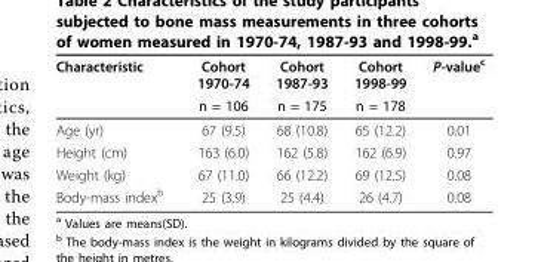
<table><thead><tr><td rowspan="2">Characteristic</td><td rowspan="2">Cohort 1970-74 n = 106</td><td rowspan="2">Cohort 1987-93 n = 175</td><td rowspan="2">Cohort 1998-99 n = 178</td><td rowspan="2">P-value<sup>c</sup></td></tr><tr></tr></thead><tbody><tr><td>Age (yr)</td><td>67 (9.5)</td><td>68 (10.8)</td><td>65 (12.2)</td><td>0.01</td></tr><tr><td>Height (cm)</td><td>163 (6.0)</td><td>162 (5.8)</td><td>162 (6.9)</td><td>0.97</td></tr><tr><td>Weight (kg)</td><td>67 (11.0)</td><td>66 (12.2)</td><td>69 (12.5)</td><td>0.08</td></tr><tr><td>Body-mass index<sup>b</sup></td><td>25 (3.9)</td><td>25 (4.4)</td><td>26 (4.7)</td><td>0.08</td></tr></tbody></table>